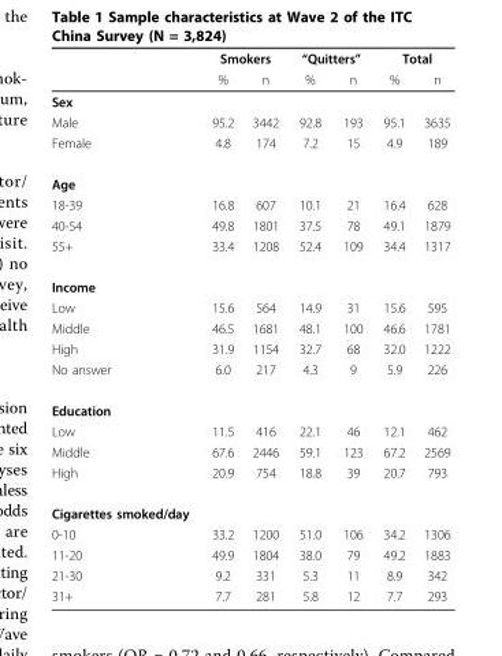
<table><thead><tr><td rowspan="2"></td><td colspan="2">Smokers</td><td colspan="2">“Quitters”</td><td colspan="2">Total</td></tr><tr><td>%</td><td>n</td><td>%</td><td>n</td><td>%</td><td>n</td></tr></thead><tbody><tr><td colspan="7">Sex</td></tr><tr><td>Male</td><td>95.2</td><td>3442</td><td>92.8</td><td>193</td><td>95.1</td><td>3635</td></tr><tr><td>Female</td><td>4.8</td><td>174</td><td>7.2</td><td>15</td><td>4.9</td><td>189</td></tr><tr><td colspan="7">Age</td></tr><tr><td>18-39</td><td>16.8</td><td>607</td><td>10.1</td><td>21</td><td>16.4</td><td>628</td></tr><tr><td>40-54</td><td>49.8</td><td>1801</td><td>37.5</td><td>78</td><td>49.1</td><td>1879</td></tr><tr><td>55+</td><td>33.4</td><td>1208</td><td>52.4</td><td>109</td><td>34.4</td><td>1317</td></tr><tr><td colspan="7">Income</td></tr><tr><td>Low</td><td>15.6</td><td>564</td><td>14.9</td><td>31</td><td>15.6</td><td>595</td></tr><tr><td>Middle</td><td>46.5</td><td>1681</td><td>48.1</td><td>100</td><td>46.6</td><td>1781</td></tr><tr><td>High</td><td>31.9</td><td>1154</td><td>32.7</td><td>68</td><td>32.0</td><td>1222</td></tr><tr><td>No answer</td><td>6.0</td><td>217</td><td>4.3</td><td>9</td><td>5.9</td><td>226</td></tr><tr><td colspan="7">Education</td></tr><tr><td>Low</td><td>11.5</td><td>416</td><td>22.1</td><td>46</td><td>12.1</td><td>462</td></tr><tr><td>Middle</td><td>67.6</td><td>2446</td><td>59.1</td><td>123</td><td>67.2</td><td>2569</td></tr><tr><td>High</td><td>20.9</td><td>754</td><td>18.8</td><td>39</td><td>20.7</td><td>793</td></tr><tr><td colspan="7">Cigarettes smoked/day</td></tr><tr><td>0-10</td><td>33.2</td><td>1200</td><td>51.0</td><td>106</td><td>34.2</td><td>1306</td></tr><tr><td>11-20</td><td>49.9</td><td>1804</td><td>38.0</td><td>79</td><td>49.2</td><td>1883</td></tr><tr><td>21-30</td><td>9.2</td><td>331</td><td>5.3</td><td>11</td><td>8.9</td><td>342</td></tr><tr><td>31+</td><td>7.7</td><td>281</td><td>5.8</td><td>12</td><td>7.7</td><td>293</td></tr></tbody></table>